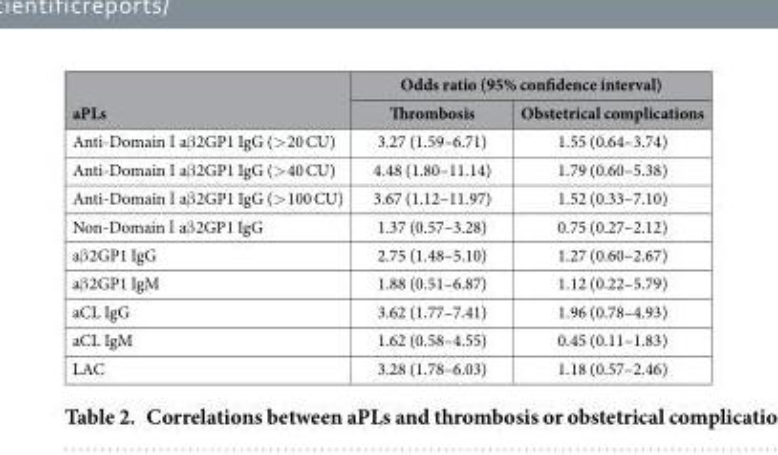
<table><thead><tr><td rowspan="2">aPLs</td><td colspan="2">Odds ratio (95% confidence interval)</td></tr><tr><td>Thrombosis</td><td>Obstetrical complications</td></tr></thead><tbody><tr><td>Anti-Domain Ι aβ 2GP1 IgG (&gt; 20 CU)</td><td>3.27 (1.59–6.71)</td><td>1.55 (0.64–3.74)</td></tr><tr><td>Anti-Domain Ι aβ 2GP1 IgG (&gt; 40 CU)</td><td>4.48 (1.80–11.14)</td><td>1.79 (0.60–5.38)</td></tr><tr><td>Anti-Domain Ι aβ 2GP1 IgG (&gt; 100 CU)</td><td>3.67 (1.12–11.97)</td><td>1.52 (0.33–7.10)</td></tr><tr><td>Non-Domain Ι aβ 2GP1 IgG</td><td>1.37 (0.57–3.28)</td><td>0.75 (0.27–2.12)</td></tr><tr><td>aβ 2GP1 IgG</td><td>2.75 (1.48–5.10)</td><td>1.27 (0.60–2.67)</td></tr><tr><td>aβ 2GP1 IgM</td><td>1.88 (0.51–6.87)</td><td>1.12 (0.22–5.79)</td></tr><tr><td>aCL IgG</td><td>3.62 (1.77–7.41)</td><td>1.96 (0.78–4.93)</td></tr><tr><td>aCL IgM</td><td>1.62 (0.58–4.55)</td><td>0.45 (0.11–1.83)</td></tr><tr><td>LAC</td><td>3.28 (1.78–6.03)</td><td>1.18 (0.57–2.46)</td></tr></tbody></table>